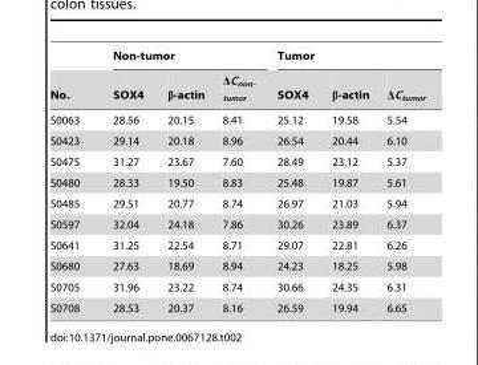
<table><thead><tr><td rowspan="2">No.</td><td colspan="3">Non-tumor</td><td colspan="3">Tumor</td></tr><tr><td>SOX4</td><td>β-actin</td><td>ΔC<sub>non- tumor</sub></td><td>SOX4</td><td>β-actin</td><td>ΔC<sub>tumor</sub></td></tr></thead><tbody><tr><td>S0063</td><td>28.56</td><td>20.15</td><td>8.41</td><td>25.12</td><td>19.58</td><td>5.54</td></tr><tr><td>S0423</td><td>29.14</td><td>20.18</td><td>8.96</td><td>26.54</td><td>20.44</td><td>6.10</td></tr><tr><td>S0475</td><td>31.27</td><td>23.67</td><td>7.60</td><td>28.49</td><td>23.12</td><td>5.37</td></tr><tr><td>S0480</td><td>28.33</td><td>19.50</td><td>8.83</td><td>25.48</td><td>19.87</td><td>5.61</td></tr><tr><td>S0485</td><td>29.51</td><td>20.77</td><td>8.74</td><td>26.97</td><td>21.03</td><td>5.94</td></tr><tr><td>S0597</td><td>32.04</td><td>24.18</td><td>7.86</td><td>30.26</td><td>23.89</td><td>6.37</td></tr><tr><td>S0641</td><td>31.25</td><td>22.54</td><td>8.71</td><td>29.07</td><td>22.81</td><td>6.26</td></tr><tr><td>S0680</td><td>27.63</td><td>18.69</td><td>8.94</td><td>24.23</td><td>18.25</td><td>5.98</td></tr><tr><td>S0705</td><td>31.96</td><td>23.22</td><td>8.74</td><td>30.66</td><td>24.35</td><td>6.31</td></tr><tr><td>S0708</td><td>28.53</td><td>20.37</td><td>8.16</td><td>26.59</td><td>19.94</td><td>6.65</td></tr></tbody></table>